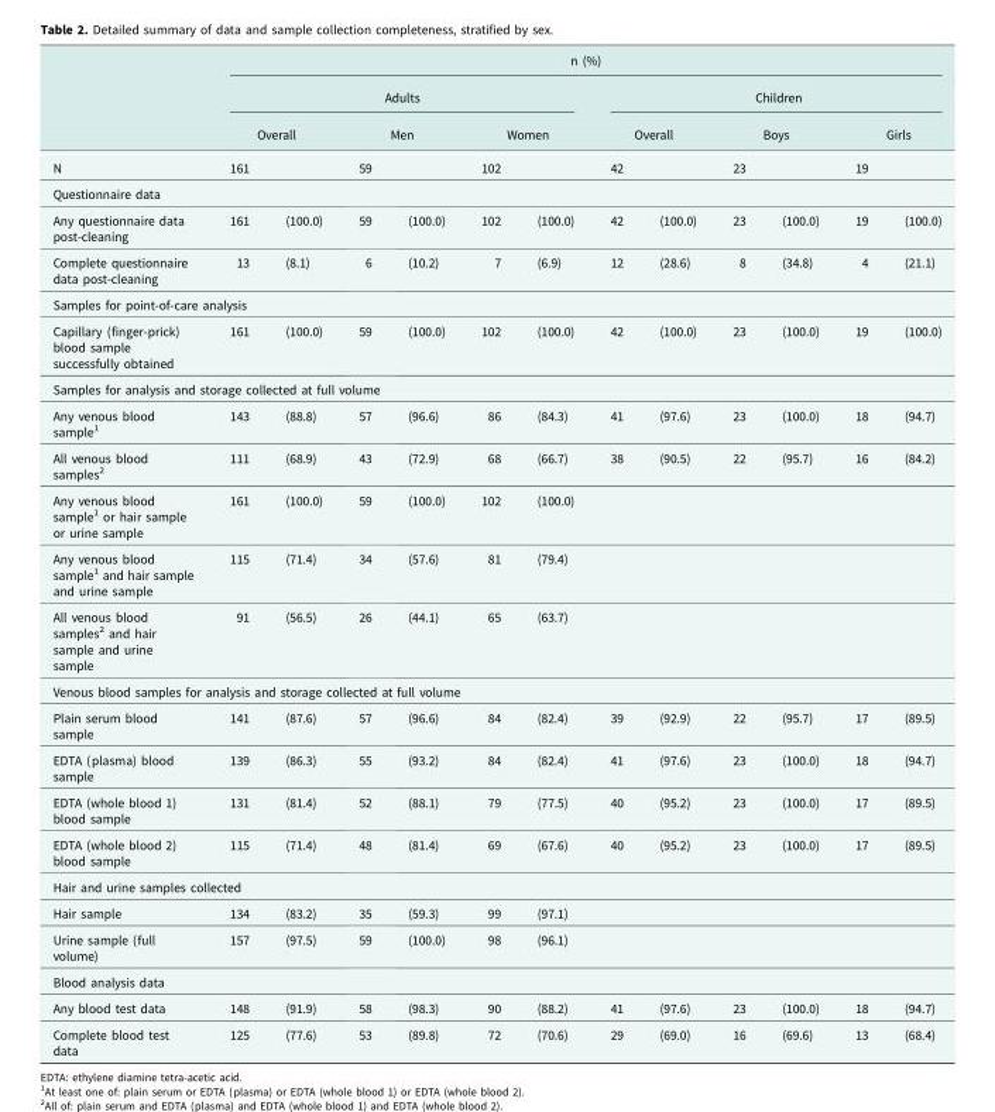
<table><thead><tr><td rowspan="5">N Questionnaire data</td><td colspan="12">n (%)</td></tr><tr><td colspan="6">Adults</td><td colspan="6">Children</td></tr><tr><td rowspan="2" colspan="2">Overall 161</td><td rowspan="2" colspan="2">Men 59</td><td rowspan="2" colspan="2">Women 102</td><td rowspan="2" colspan="2">Overall 42</td><td rowspan="2" colspan="2">Boys 23</td><td rowspan="2" colspan="2">Girls 19</td></tr><tr></tr><tr><td></td><td></td><td></td><td></td><td></td><td></td><td></td><td></td><td></td><td></td><td></td><td></td></tr></thead><tbody><tr><td>Any questionnaire data post-cleaning</td><td>161</td><td>(100.0)</td><td>59</td><td>(100.0)</td><td>102</td><td>(100.0)</td><td>42</td><td>(100.0)</td><td>23</td><td>(100.0)</td><td>19</td><td>(100.0)</td></tr><tr><td>Complete questionnaire data post-cleaning</td><td>13</td><td>(8.1)</td><td>6</td><td>(10.2)</td><td>7</td><td>(6.9)</td><td>12</td><td>(28.6)</td><td>8</td><td>(34.8)</td><td>4</td><td>(21.1)</td></tr><tr><td colspan="13">Samples for point-of-care analysis</td></tr><tr><td>Capillary (finger-prick) blood sample successfully obtained</td><td>161</td><td>(100.0)</td><td>59</td><td>(100.0)</td><td>102</td><td>(100.0)</td><td>42</td><td>(100.0)</td><td>23</td><td>(100.0)</td><td>19</td><td>(100.0)</td></tr><tr><td colspan="13">Samples for analysis and storage collected at full volume</td></tr><tr><td>Any venous blood sample<sup>1</sup></td><td>143</td><td>(88.8)</td><td>57</td><td>(96.6)</td><td>86</td><td>(84.3)</td><td>41</td><td>(97.6)</td><td>23</td><td>(100.0)</td><td>18</td><td>(94.7)</td></tr><tr><td>All venous blood samples<sup>2</sup></td><td>111</td><td>(68.9)</td><td>43</td><td>(72.9)</td><td>68</td><td>(66.7)</td><td>38</td><td>(90.5)</td><td>22</td><td>(95.7)</td><td>16</td><td>(84.2)</td></tr><tr><td>Any venous blood sample<sup>1</sup> or hair sample or urine sample</td><td>161</td><td>(100.0)</td><td>59</td><td>(100.0)</td><td>102</td><td>(100.0)</td><td></td><td></td><td></td><td></td><td></td><td></td></tr><tr><td>Any venous blood sample<sup>1</sup> and hair sample and urine sample</td><td>115</td><td>(71.4)</td><td>34</td><td>(57.6)</td><td>81</td><td>(79.4)</td><td></td><td></td><td></td><td></td><td></td><td></td></tr><tr><td>All venous blood samples<sup>2</sup> and hair sample and urine sample</td><td>91</td><td>(56.5)</td><td>26</td><td>(44.1)</td><td>65</td><td>(63.7)</td><td></td><td></td><td></td><td></td><td></td><td></td></tr><tr><td colspan="13">Venous blood samples for analysis and storage collected at full volume</td></tr><tr><td>Plain serum blood sample</td><td>141</td><td>(87.6)</td><td>57</td><td>(96.6)</td><td>84</td><td>(82.4)</td><td>39</td><td>(92.9)</td><td>22</td><td>(95.7)</td><td>17</td><td>(89.5)</td></tr><tr><td>EDTA (plasma) blood sample</td><td>139</td><td>(86.3)</td><td>55</td><td>(93.2)</td><td>84</td><td>(82.4)</td><td>41</td><td>(97.6)</td><td>23</td><td>(100.0)</td><td>18</td><td>(94.7)</td></tr><tr><td>EDTA (whole blood 1) blood sample</td><td>131</td><td>(81.4)</td><td>52</td><td>(88.1)</td><td>79</td><td>(77.5)</td><td>40</td><td>(95.2)</td><td>23</td><td>(100.0)</td><td>17</td><td>(89.5)</td></tr><tr><td>EDTA (whole blood 2) blood sample</td><td>115</td><td>(71.4)</td><td>48</td><td>(81.4)</td><td>69</td><td>(67.6)</td><td>40</td><td>(95.2)</td><td>23</td><td>(100.0)</td><td>17</td><td>(89.5)</td></tr><tr><td colspan="13">Hair and urine samples collected</td></tr><tr><td>Hair sample</td><td>134</td><td>(83.2)</td><td>35</td><td>(59.3)</td><td>99</td><td>(97.1)</td><td></td><td></td><td></td><td></td><td></td><td></td></tr><tr><td>Urine sample (full volume)</td><td>157</td><td>(97.5)</td><td>59</td><td>(100.0)</td><td>98</td><td>(96.1)</td><td></td><td></td><td></td><td></td><td></td><td></td></tr><tr><td colspan="13">Blood analysis data</td></tr><tr><td>Any blood test data</td><td>148</td><td>(91.9)</td><td>58</td><td>(98.3)</td><td>90</td><td>(88.2)</td><td>41</td><td>(97.6)</td><td>23</td><td>(100.0)</td><td>18</td><td>(94.7)</td></tr><tr><td>Complete blood test data</td><td>125</td><td>(77.6)</td><td>53</td><td>(89.8)</td><td>72</td><td>(70.6)</td><td>29</td><td>(69.0)</td><td>16</td><td>(69.6)</td><td>13</td><td>(68.4)</td></tr></tbody></table>